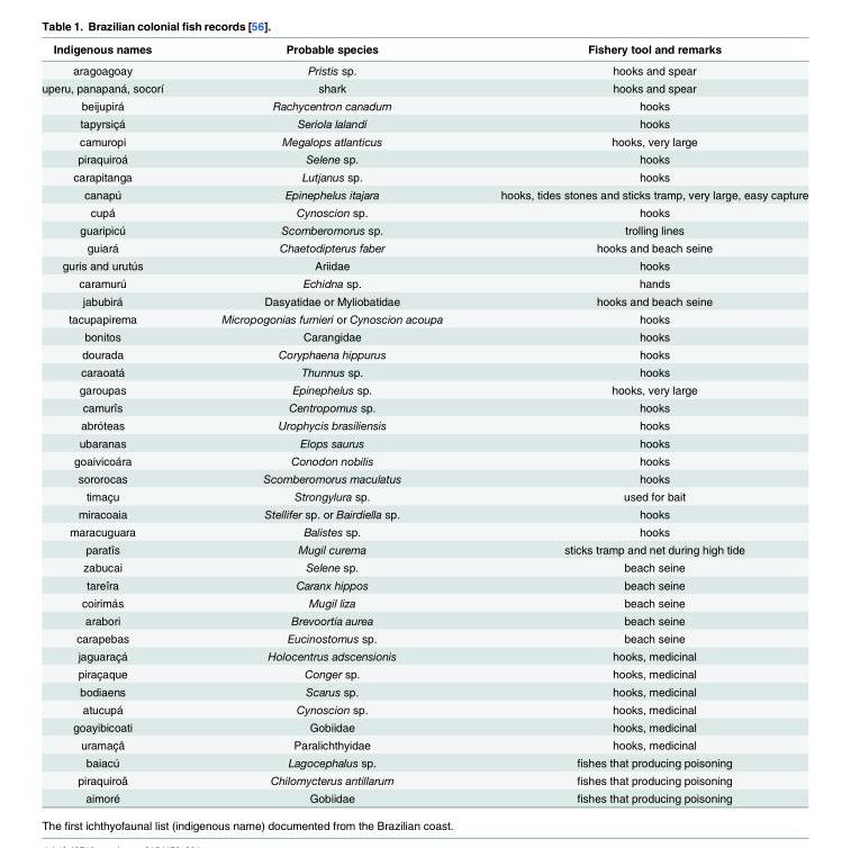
<table><thead><tr><td>Indigenous names</td><td>Probable species</td><td>Fishery tool and remarks</td></tr></thead><tbody><tr><td>aragoagoay</td><td>Pristis sp.</td><td>hooks and spear</td></tr><tr><td>uperu, panapaná, socorí</td><td>shark</td><td>hooks and spear</td></tr><tr><td>beijupirá</td><td>Rachycentron canadum</td><td>hooks</td></tr><tr><td>tapyrsiçá</td><td>Seriola lalandi</td><td>hooks</td></tr><tr><td>camuropi</td><td>Megalops atlanticus</td><td>hooks, very large</td></tr><tr><td>piraquiroá</td><td>Selene sp.</td><td>hooks</td></tr><tr><td>carapitanga</td><td>Lutjanus sp.</td><td>hooks</td></tr><tr><td>canapú</td><td>Epinephelus itajara</td><td>hooks, tides stones and sticks tramp, very large, easy capture</td></tr><tr><td>cupá</td><td>Cynoscion sp.</td><td>hooks</td></tr><tr><td>guaripicú</td><td>Scomberomorus sp.</td><td>trolling lines</td></tr><tr><td>guiará</td><td>Chaetodipterus faber</td><td>hooks and beach seine</td></tr><tr><td>guris and urutús</td><td>Ariidae</td><td>hooks</td></tr><tr><td>caramurú</td><td>Echidna sp.</td><td>hands</td></tr><tr><td>jabubirá</td><td>Dasyatidae or Myliobatidae</td><td>hooks and beach seine</td></tr><tr><td>tacupapirema</td><td>Micropogonias furnieri or Cynoscion acoupa</td><td>hooks</td></tr><tr><td>bonitos</td><td>Carangidae</td><td>hooks</td></tr><tr><td>dourada</td><td>Coryphaena hippurus</td><td>hooks</td></tr><tr><td>caraoatá</td><td>Thunnus sp.</td><td>hooks</td></tr><tr><td>garoupas</td><td>Epinephelus sp.</td><td>hooks, very large</td></tr><tr><td>camurîs</td><td>Centropomus sp.</td><td>hooks</td></tr><tr><td>abróteas</td><td>Urophycis brasiliensis</td><td>hooks</td></tr><tr><td>ubaranas</td><td>Elops saurus</td><td>hooks</td></tr><tr><td>goaivicoára</td><td>Conodon nobilis</td><td>hooks</td></tr><tr><td>sororocas</td><td>Scomberomorus maculatus</td><td>hooks</td></tr><tr><td>timaçu</td><td>Strongylura sp.</td><td>used for bait</td></tr><tr><td>miracoaia</td><td>Stellifer sp. or Bairdiella sp.</td><td>hooks</td></tr><tr><td>maracuguara</td><td>Balistes sp.</td><td>hooks</td></tr><tr><td>paratîs</td><td>Mugil curema</td><td>sticks tramp and net during high tide</td></tr><tr><td>zabucai</td><td>Selene sp.</td><td>beach seine</td></tr><tr><td>tareîra</td><td>Caranx hippos</td><td>beach seine</td></tr><tr><td>coirimás</td><td>Mugil liza</td><td>beach seine</td></tr><tr><td>arabori</td><td>Brevoortia aurea</td><td>beach seine</td></tr><tr><td>carapebas</td><td>Eucinostomus sp.</td><td>beach seine</td></tr><tr><td>jaguaraçá</td><td>Holocentrus adscensionis</td><td>hooks, medicinal</td></tr><tr><td>piraçaque</td><td>Conger sp.</td><td>hooks, medicinal</td></tr><tr><td>bodiaens</td><td>Scarus sp.</td><td>hooks, medicinal</td></tr><tr><td>atucupá</td><td>Cynoscion sp.</td><td>hooks, medicinal</td></tr><tr><td>goayibicoati</td><td>Gobiidae</td><td>hooks, medicinal</td></tr><tr><td>uramaçâ</td><td>Paralichthyidae</td><td>hooks, medicinal</td></tr><tr><td>baiacú</td><td>Lagocephalus sp.</td><td>fishes that producing poisoning</td></tr><tr><td>piraquiroâ</td><td>Chilomycterus antillarum</td><td>fishes that producing poisoning</td></tr><tr><td>aimoré</td><td>Gobiidae</td><td>fishes that producing poisoning</td></tr></tbody></table>